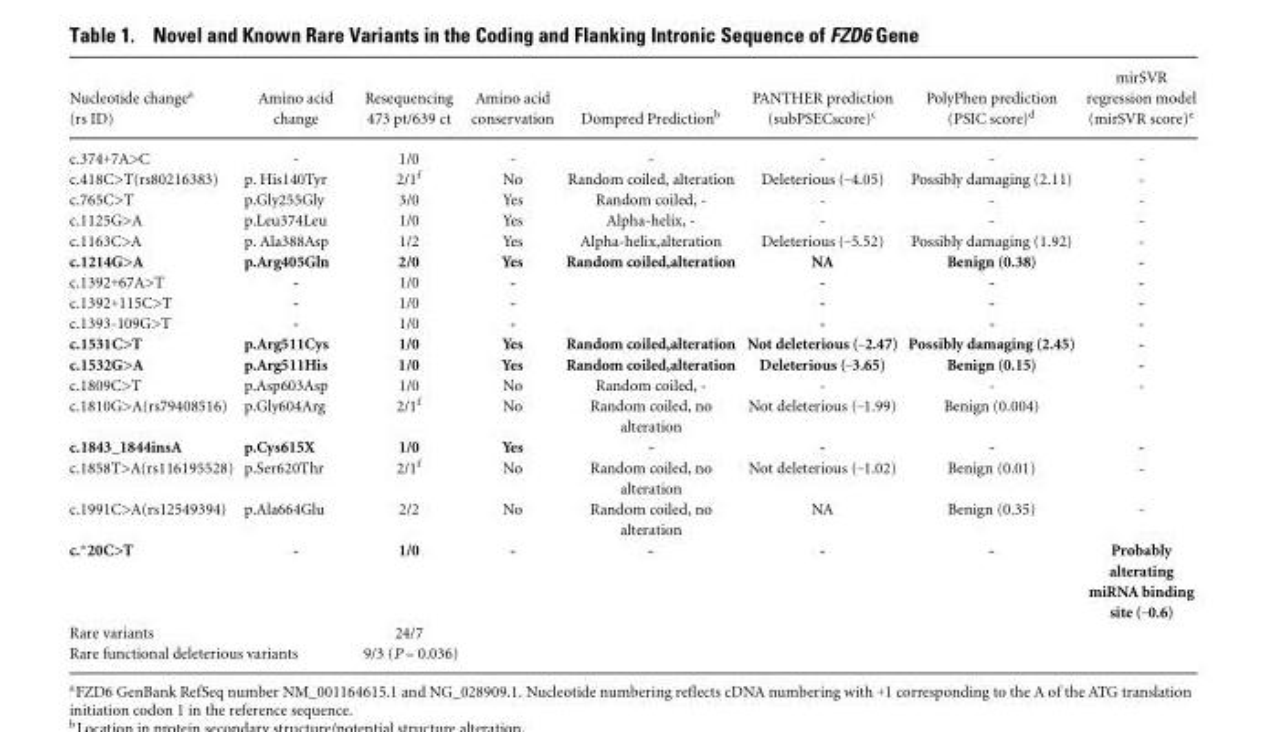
<table><thead><tr><td>Nucleotide change<sup>a</sup> (rs ID)</td><td>Amino acid change</td><td>Resequencing 473 pt/639 ct</td><td>Amino acid conservation</td><td>Dompred Prediction<sup>b</sup></td><td>PANTHER prediction (subPSECscore)<sup>c</sup></td><td>PolyPhen prediction (PSIC score)<sup>d</sup></td><td>mirSVR regression model (mirSVR score)<sup>e</sup></td></tr></thead><tbody><tr><td>c.374+7A&gt;C</td><td>-</td><td>1/0</td><td>-</td><td>-</td><td>-</td><td>-</td><td>-</td></tr><tr><td>c.418C&gt;T(rs80216383)</td><td>p. His140Tyr</td><td>2/1<sup>f</sup></td><td>No</td><td>Random coiled, alteration</td><td>Deleterious (–4.05)</td><td>Possibly damaging (2.11)</td><td>-</td></tr><tr><td>c.765C&gt;T</td><td>p.Gly255Gly</td><td>3/0</td><td>Yes</td><td>Random coiled, -</td><td>-</td><td>-</td><td>-</td></tr><tr><td>c.1125G&gt;A</td><td>p.Leu374Leu</td><td>1/0</td><td>Yes</td><td>Alpha-helix, -</td><td>-</td><td>-</td><td>-</td></tr><tr><td>c.1163C&gt;A</td><td>p. Ala388Asp</td><td>1/2</td><td>Yes</td><td>Alpha-helix,alteration</td><td>Deleterious (–5.52)</td><td>Possibly damaging (1.92)</td><td>-</td></tr><tr><td>c.1214G&gt;A</td><td>p.Arg405Gln</td><td>2/0</td><td>Yes</td><td>Random coiled,alteration</td><td>NA</td><td>Benign (0.38)</td><td>-</td></tr><tr><td>c.1392+67A&gt;T</td><td>-</td><td>1/0</td><td>-</td><td></td><td>-</td><td>-</td><td>-</td></tr><tr><td>c.1392+115C&gt;T</td><td>-</td><td>1/0</td><td>-</td><td></td><td>-</td><td>-</td><td>-</td></tr><tr><td>c.1393-109G&gt;T</td><td>-</td><td>1/0</td><td>-</td><td></td><td>-</td><td>-</td><td>-</td></tr><tr><td>c.1531C&gt;T</td><td>p.Arg511Cys</td><td>1/0</td><td>Yes</td><td>Random coiled,alteration</td><td>Not deleterious (–2.47)</td><td>Possibly damaging (2.45)</td><td>-</td></tr><tr><td>c.1532G&gt;A</td><td>p.Arg511His</td><td>1/0</td><td>Yes</td><td>Random coiled,alteration</td><td>Deleterious (–3.65)</td><td>Benign (0.15)</td><td>-</td></tr><tr><td>c.1809C&gt;T</td><td>p.Asp603Asp</td><td>1/0</td><td>No</td><td>Random coiled, -</td><td>-</td><td>-</td><td>-</td></tr><tr><td>c.1810G&gt;A(rs79408516)</td><td>p.Gly604Arg</td><td>2/1<sup>f</sup></td><td>No</td><td>Random coiled, no alteration</td><td>Not deleterious (–1.99)</td><td>Benign (0.004)</td><td></td></tr><tr><td>c.1843_1844insA</td><td>p.Cys615X</td><td>1/0</td><td>Yes</td><td>-</td><td>-</td><td>-</td><td>-</td></tr><tr><td>c.1858T&gt;A(rs116195528)</td><td>p.Ser620Thr</td><td>2/1<sup>f</sup></td><td>No</td><td>Random coiled, no alteration</td><td>Not deleterious (–1.02)</td><td>Benign (0.01)</td><td>-</td></tr><tr><td>c.1991C&gt;A(rs12549394)</td><td>p.Ala664Glu</td><td>2/2</td><td>No</td><td>Random coiled, no alteration</td><td>NA</td><td>Benign (0.35)</td><td>-</td></tr><tr><td>c.∗20C&gt;T</td><td>-</td><td>1/0</td><td>-</td><td>-</td><td>-</td><td>-</td><td>Probably alterating miRNA binding site (–0.6)</td></tr><tr><td colspan="2">Rare variants</td><td>24/7</td><td></td><td></td><td></td><td></td><td></td></tr><tr><td colspan="2">Rare functional deleterious variants</td><td>9/3 (P = 0.036)</td><td></td><td></td><td></td><td></td><td></td></tr></tbody></table>